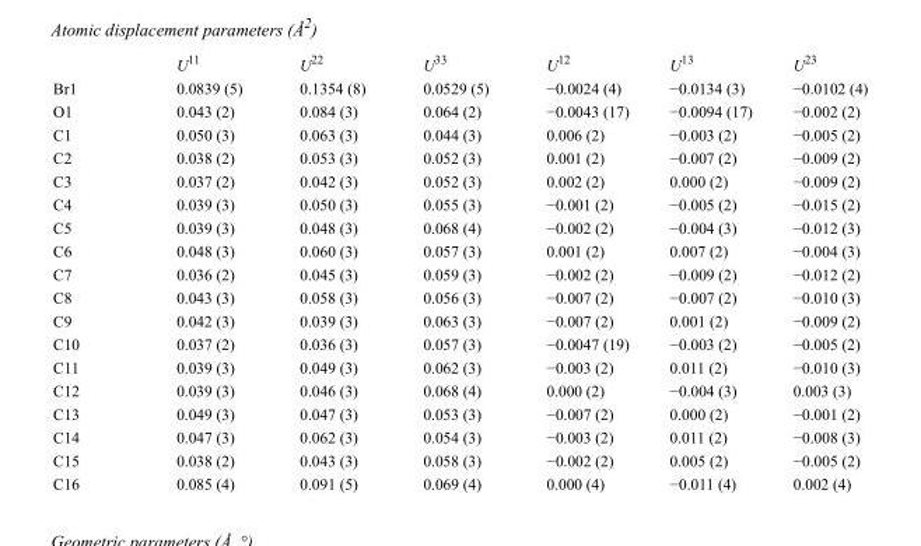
<table><thead><tr><td></td><td>U<sup>11</sup></td><td>U<sup>22</sup></td><td>U<sup>33</sup></td><td>U<sup>12</sup></td><td>U<sup>13</sup></td><td>U<sup>23</sup></td></tr></thead><tbody><tr><td>Br1</td><td>0.0839 (5)</td><td>0.1354 (8)</td><td>0.0529 (5)</td><td>−0.0024 (4)</td><td>−0.0134 (3)</td><td>−0.0102 (4)</td></tr><tr><td>O1</td><td>0.043 (2)</td><td>0.084 (3)</td><td>0.064 (2)</td><td>−0.0043 (17)</td><td>−0.0094 (17)</td><td>−0.002 (2)</td></tr><tr><td>C1</td><td>0.050 (3)</td><td>0.063 (3)</td><td>0.044 (3)</td><td>0.006 (2)</td><td>−0.003 (2)</td><td>−0.005 (2)</td></tr><tr><td>C2</td><td>0.038 (2)</td><td>0.053 (3)</td><td>0.052 (3)</td><td>0.001 (2)</td><td>−0.007 (2)</td><td>−0.009 (2)</td></tr><tr><td>C3</td><td>0.037 (2)</td><td>0.042 (3)</td><td>0.052 (3)</td><td>0.002 (2)</td><td>0.000 (2)</td><td>−0.009 (2)</td></tr><tr><td>C4</td><td>0.039 (3)</td><td>0.050 (3)</td><td>0.055 (3)</td><td>−0.001 (2)</td><td>−0.005 (2)</td><td>−0.015 (2)</td></tr><tr><td>C5</td><td>0.039 (3)</td><td>0.048 (3)</td><td>0.068 (4)</td><td>−0.002 (2)</td><td>−0.004 (3)</td><td>−0.012 (3)</td></tr><tr><td>C6</td><td>0.048 (3)</td><td>0.060 (3)</td><td>0.057 (3)</td><td>0.001 (2)</td><td>0.007 (2)</td><td>−0.004 (3)</td></tr><tr><td>C7</td><td>0.036 (2)</td><td>0.045 (3)</td><td>0.059 (3)</td><td>−0.002 (2)</td><td>−0.009 (2)</td><td>−0.012 (2)</td></tr><tr><td>C8</td><td>0.043 (3)</td><td>0.058 (3)</td><td>0.056 (3)</td><td>−0.007 (2)</td><td>−0.007 (2)</td><td>−0.010 (3)</td></tr><tr><td>C9</td><td>0.042 (3)</td><td>0.039 (3)</td><td>0.063 (3)</td><td>−0.007 (2)</td><td>0.001 (2)</td><td>−0.009 (2)</td></tr><tr><td>C10</td><td>0.037 (2)</td><td>0.036 (3)</td><td>0.057 (3)</td><td>−0.0047 (19)</td><td>−0.003 (2)</td><td>−0.005 (2)</td></tr><tr><td>C11</td><td>0.039 (3)</td><td>0.049 (3)</td><td>0.062 (3)</td><td>−0.003 (2)</td><td>0.011 (2)</td><td>−0.010 (3)</td></tr><tr><td>C12</td><td>0.039 (3)</td><td>0.046 (3)</td><td>0.068 (4)</td><td>0.000 (2)</td><td>−0.004 (3)</td><td>0.003 (3)</td></tr><tr><td>C13</td><td>0.049 (3)</td><td>0.047 (3)</td><td>0.053 (3)</td><td>−0.007 (2)</td><td>0.000 (2)</td><td>−0.001 (2)</td></tr><tr><td>C14</td><td>0.047 (3)</td><td>0.062 (3)</td><td>0.054 (3)</td><td>−0.003 (2)</td><td>0.011 (2)</td><td>−0.008 (3)</td></tr><tr><td>C15</td><td>0.038 (2)</td><td>0.043 (3)</td><td>0.058 (3)</td><td>−0.002 (2)</td><td>0.005 (2)</td><td>−0.005 (2)</td></tr><tr><td>C16</td><td>0.085 (4)</td><td>0.091 (5)</td><td>0.069 (4)</td><td>0.000 (4)</td><td>−0.011 (4)</td><td>0.002 (4)</td></tr></tbody></table>